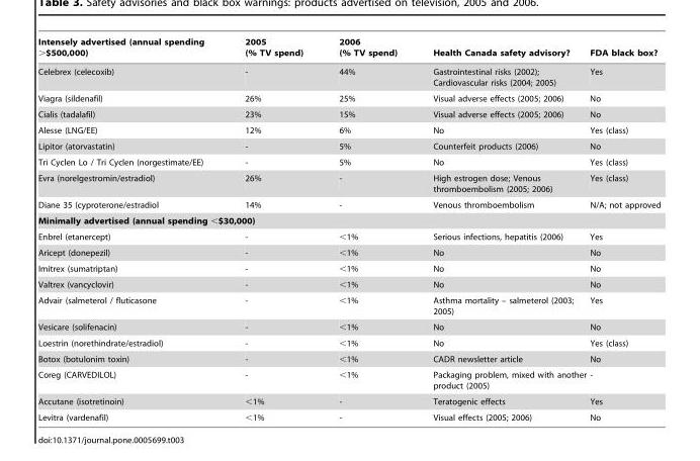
<table><thead><tr><td>Intensely advertised (annual spending &gt;$500,000)</td><td>2005 (% TV spend)</td><td>2006 (% TV spend)</td><td>Health Canada safety advisory?</td><td>FDA black box?</td></tr></thead><tbody><tr><td>Celebrex (celecoxib)</td><td>-</td><td>44%</td><td>Gastrointestinal risks (2002); Cardiovascular risks (2004; 2005)</td><td>Yes</td></tr><tr><td>Viagra (sildenafil)</td><td>26%</td><td>25%</td><td>Visual adverse effects (2005; 2006)</td><td>No</td></tr><tr><td>Cialis (tadalafil)</td><td>23%</td><td>15%</td><td>Visual adverse effects (2005; 2006)</td><td>No</td></tr><tr><td>Alesse (LNG/EE)</td><td>12%</td><td>6%</td><td>No</td><td>Yes (class)</td></tr><tr><td>Lipitor (atorvastatin)</td><td>-</td><td>5%</td><td>Counterfeit products (2006)</td><td>No</td></tr><tr><td>Tri Cyclen Lo / Tri Cyclen (norgestimate/EE)</td><td>-</td><td>5%</td><td>No</td><td>Yes (class)</td></tr><tr><td>Evra (norelgestromin/estradiol)</td><td>26%</td><td>-</td><td>High estrogen dose; Venous thromboembolism (2005; 2006)</td><td>Yes (class)</td></tr><tr><td>Diane 35 (cyproterone/estradiol</td><td>14%</td><td>-</td><td>Venous thromboembolism</td><td>N/A; not approved</td></tr><tr><td colspan="5">Minimally advertised (annual spending &lt;$30,000)</td></tr><tr><td>Enbrel (etanercept)</td><td>-</td><td>&lt;1%</td><td>Serious infections, hepatitis (2006)</td><td>Yes</td></tr><tr><td>Aricept (donepezil)</td><td>-</td><td>&lt;1%</td><td>No</td><td>No</td></tr><tr><td>Imitrex (sumatriptan)</td><td>-</td><td>&lt;1%</td><td>No</td><td>No</td></tr><tr><td>Valtrex (vancyclovir)</td><td>-</td><td>&lt;1%</td><td>No</td><td>No</td></tr><tr><td>Advair (salmeterol / fluticasone</td><td>-</td><td>&lt;1%</td><td>Asthma mortality – salmeterol (2003; 2005)</td><td>Yes</td></tr><tr><td>Vesicare (solifenacin)</td><td>-</td><td>&lt;1%</td><td>No</td><td>No</td></tr><tr><td>Loestrin (norethindrate/estradiol)</td><td>-</td><td>&lt;1%</td><td>No</td><td>Yes (class)</td></tr><tr><td>Botox (botulonim toxin)</td><td>-</td><td>&lt;1%</td><td>CADR newsletter article</td><td>No</td></tr><tr><td>Coreg (CARVEDILOL)</td><td>-</td><td>&lt;1%</td><td>Packaging problem, mixed with another product (2005)</td><td>-</td></tr><tr><td>Accutane (isotretinoin)</td><td>&lt;1%</td><td>-</td><td>Teratogenic effects</td><td>Yes</td></tr><tr><td>Levitra (vardenafil)</td><td>&lt;1%</td><td>-</td><td>Visual effects (2005; 2006)</td><td>No</td></tr></tbody></table>